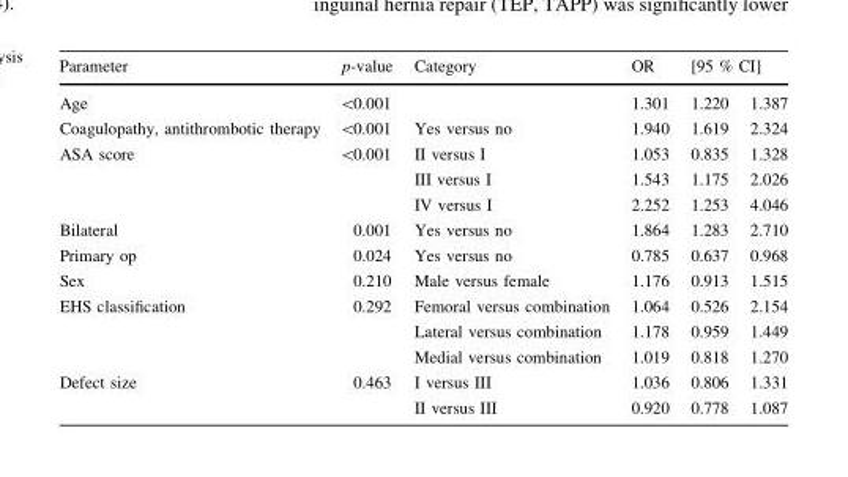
<table><thead><tr><td rowspan="2">Parameter Age</td><td rowspan="2">p-value &lt;0.001</td><td rowspan="2">Category</td><td rowspan="2">OR 1.301</td><td colspan="2">[95 % CI]</td></tr><tr><td>1.220</td><td>1.387</td></tr></thead><tbody><tr><td>Coagulopathy, antithrombotic therapy</td><td>&lt;0.001</td><td>Yes versus no</td><td>1.940</td><td>1.619</td><td>2.324</td></tr><tr><td rowspan="3">ASA score</td><td rowspan="3">&lt;0.001</td><td>II versus I</td><td>1.053</td><td>0.835</td><td>1.328</td></tr><tr><td>III versus I</td><td>1.543</td><td>1.175</td><td>2.026</td></tr><tr><td>IV versus I</td><td>2.252</td><td>1.253</td><td>4.046</td></tr><tr><td>Bilateral</td><td>0.001</td><td>Yes versus no</td><td>1.864</td><td>1.283</td><td>2.710</td></tr><tr><td>Primary op</td><td>0.024</td><td>Yes versus no</td><td>0.785</td><td>0.637</td><td>0.968</td></tr><tr><td>Sex</td><td>0.210</td><td>Male versus female</td><td>1.176</td><td>0.913</td><td>1.515</td></tr><tr><td rowspan="3">EHS classification</td><td rowspan="3">0.292</td><td>Femoral versus combination</td><td>1.064</td><td>0.526</td><td>2.154</td></tr><tr><td>Lateral versus combination</td><td>1.178</td><td>0.959</td><td>1.449</td></tr><tr><td>Medial versus combination</td><td>1.019</td><td>0.818</td><td>1.270</td></tr><tr><td rowspan="2">Defect size</td><td rowspan="2">0.463</td><td>I versus III</td><td>1.036</td><td>0.806</td><td>1.331</td></tr><tr><td>II versus III</td><td>0.920</td><td>0.778</td><td>1.087</td></tr></tbody></table>